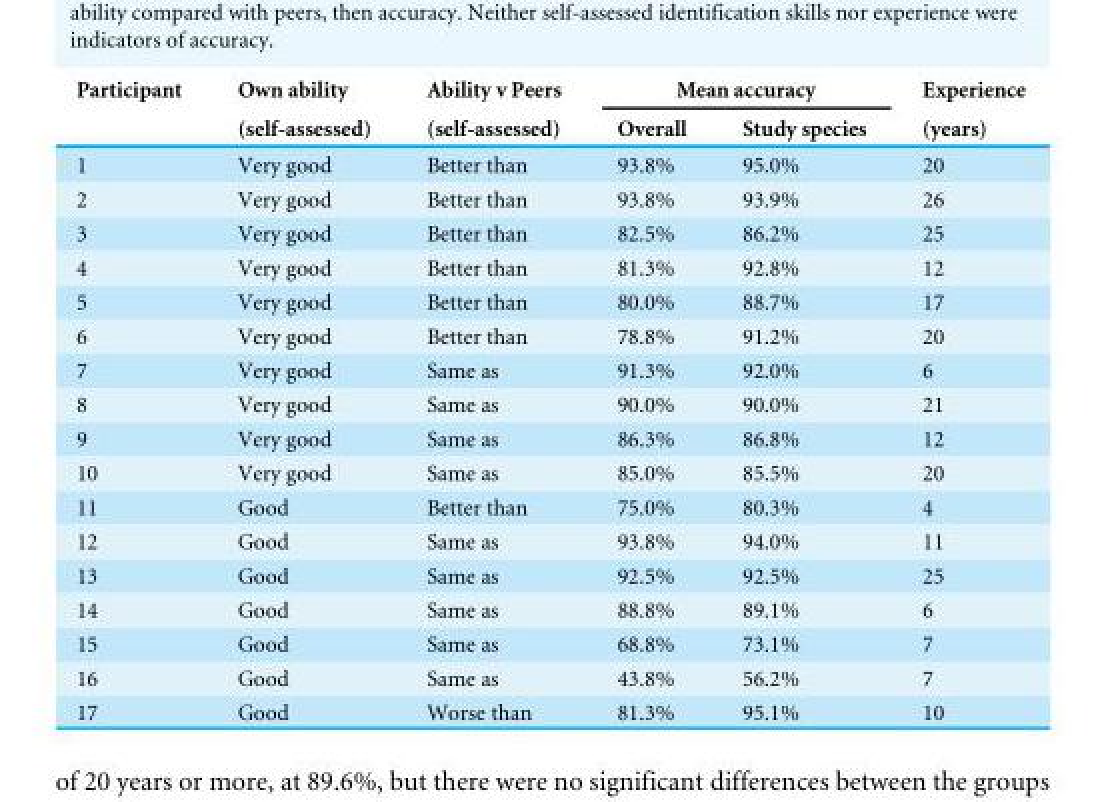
<table><thead><tr><td rowspan="2">Participant</td><td rowspan="2">Own ability (self-assessed)</td><td rowspan="2">Ability v Peers (self-assessed)</td><td colspan="2">Mean accuracy</td><td rowspan="2">Experience (years)</td></tr><tr><td>Overall</td><td>Study species</td></tr></thead><tbody><tr><td>1</td><td>Very good</td><td>Better than</td><td>93.8%</td><td>95.0%</td><td>20</td></tr><tr><td>2</td><td>Very good</td><td>Better than</td><td>93.8%</td><td>93.9%</td><td>26</td></tr><tr><td>3</td><td>Very good</td><td>Better than</td><td>82.5%</td><td>86.2%</td><td>25</td></tr><tr><td>4</td><td>Very good</td><td>Better than</td><td>81.3%</td><td>92.8%</td><td>12</td></tr><tr><td>5</td><td>Very good</td><td>Better than</td><td>80.0%</td><td>88.7%</td><td>17</td></tr><tr><td>6</td><td>Very good</td><td>Better than</td><td>78.8%</td><td>91.2%</td><td>20</td></tr><tr><td>7</td><td>Very good</td><td>Same as</td><td>91.3%</td><td>92.0%</td><td>6</td></tr><tr><td>8</td><td>Very good</td><td>Same as</td><td>90.0%</td><td>90.0%</td><td>21</td></tr><tr><td>9</td><td>Very good</td><td>Same as</td><td>86.3%</td><td>86.8%</td><td>12</td></tr><tr><td>10</td><td>Very good</td><td>Same as</td><td>85.0%</td><td>85.5%</td><td>20</td></tr><tr><td>11</td><td>Good</td><td>Better than</td><td>75.0%</td><td>80.3%</td><td>4</td></tr><tr><td>12</td><td>Good</td><td>Same as</td><td>93.8%</td><td>94.0%</td><td>11</td></tr><tr><td>13</td><td>Good</td><td>Same as</td><td>92.5%</td><td>92.5%</td><td>25</td></tr><tr><td>14</td><td>Good</td><td>Same as</td><td>88.8%</td><td>89.1%</td><td>6</td></tr><tr><td>15</td><td>Good</td><td>Same as</td><td>68.8%</td><td>73.1%</td><td>7</td></tr><tr><td>16</td><td>Good</td><td>Same as</td><td>43.8%</td><td>56.2%</td><td>7</td></tr><tr><td>17</td><td>Good</td><td>Worse than</td><td>81.3%</td><td>95.1%</td><td>10</td></tr></tbody></table>